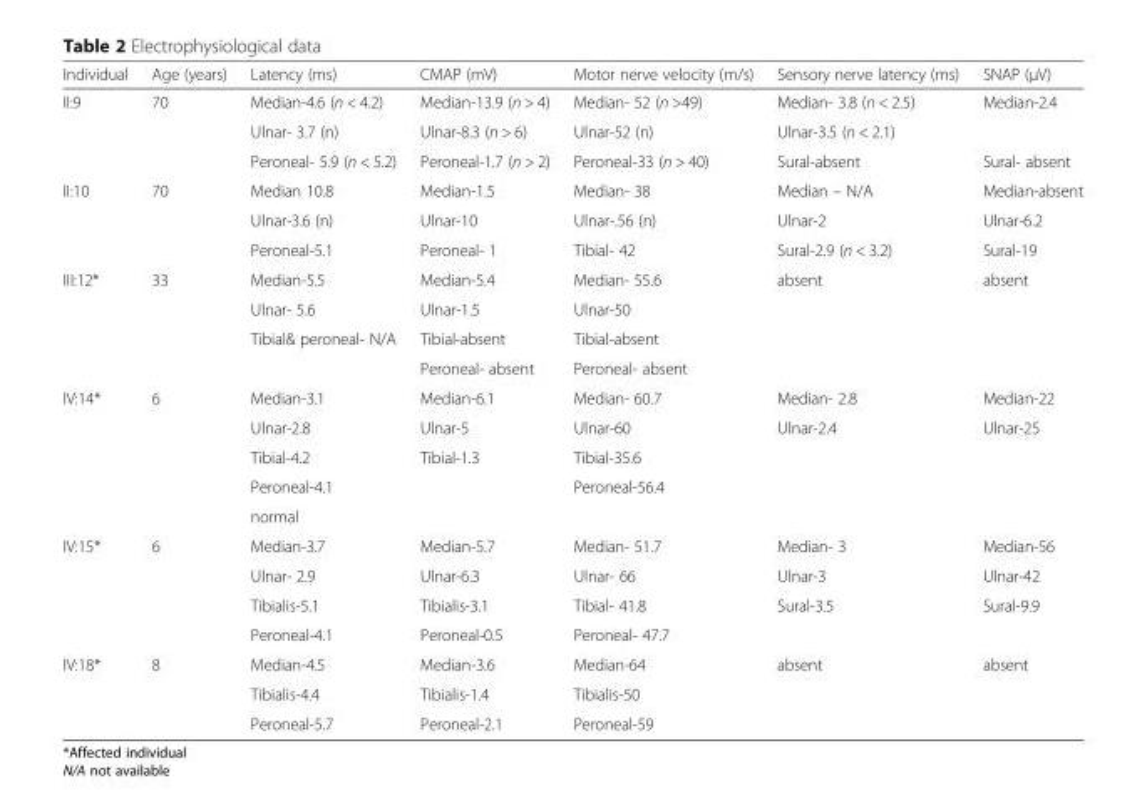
<table><thead><tr><td>Individual</td><td>Age (years)</td><td>Latency (ms)</td><td>CMAP (mV)</td><td>Motor nerve velocity (m/s)</td><td>Sensory nerve latency (ms)</td><td>SNAP (μV)</td></tr></thead><tbody><tr><td rowspan="3">II:9</td><td rowspan="3">70</td><td>Median-4.6 (n &lt; 4.2)</td><td>Median-13.9 (n &gt; 4)</td><td>Median- 52 (n &gt;49)</td><td>Median- 3.8 (n &lt; 2.5)</td><td>Median-2.4</td></tr><tr><td>Ulnar- 3.7 (n)</td><td>Ulnar-8.3 (n &gt; 6)</td><td>Ulnar-52 (n)</td><td>Ulnar-3.5 (n &lt; 2.1)</td><td></td></tr><tr><td>Peroneal- 5.9 (n &lt; 5.2)</td><td>Peroneal-1.7 (n &gt; 2)</td><td>Peroneal-33 (n &gt; 40)</td><td>Sural-absent</td><td>Sural- absent</td></tr><tr><td rowspan="3">II:10</td><td rowspan="3">70</td><td>Median 10.8</td><td>Median-1.5</td><td>Median- 38</td><td>Median – N/A</td><td>Median-absent</td></tr><tr><td>Ulnar-3.6 (n)</td><td>Ulnar-10</td><td>Ulnar-.56 (n)</td><td>Ulnar-2</td><td>Ulnar-6.2</td></tr><tr><td>Peroneal-5.1</td><td>Peroneal- 1</td><td>Tibial- 42</td><td>Sural-2.9 (n &lt; 3.2)</td><td>Sural-19</td></tr><tr><td rowspan="4">III:12*</td><td rowspan="4">33</td><td>Median-5.5</td><td>Median-5.4</td><td>Median- 55.6</td><td rowspan="4">absent</td><td rowspan="4">absent</td></tr><tr><td>Ulnar- 5.6</td><td>Ulnar-1.5</td><td>Ulnar-50</td></tr><tr><td rowspan="2">Tibial&amp; peroneal- N/A</td><td>Tibial-absent</td><td>Tibial-absent</td></tr><tr><td>Peroneal- absent</td><td>Peroneal- absent</td></tr><tr><td rowspan="5">IV:14*</td><td rowspan="5">6</td><td>Median-3.1</td><td>Median-6.1</td><td>Median- 60.7</td><td>Median- 2.8</td><td>Median-22</td></tr><tr><td>Ulnar-2.8</td><td>Ulnar-5</td><td>Ulnar-60</td><td>Ulnar-2.4</td><td rowspan="4">Ulnar-25</td></tr><tr><td>Tibial-4.2</td><td>Tibial-1.3</td><td>Tibial-35.6</td><td></td></tr><tr><td>Peroneal-4.1</td><td></td><td>Peroneal-56.4</td><td rowspan="2"></td></tr><tr><td>normal</td><td></td><td></td></tr><tr><td rowspan="4">IV:15*</td><td rowspan="4">6</td><td>Median-3.7</td><td>Median-5.7</td><td>Median- 51.7</td><td>Median- 3</td><td>Median-56</td></tr><tr><td>Ulnar- 2.9</td><td>Ulnar-6.3</td><td>Ulnar- 66</td><td>Ulnar-3</td><td>Ulnar-42</td></tr><tr><td>Tibialis-5.1</td><td>Tibialis-3.1</td><td>Tibial- 41.8</td><td>Sural-3.5</td><td>Sural-9.9</td></tr><tr><td>Peroneal-4.1</td><td>Peroneal-0.5</td><td>Peroneal- 47.7</td><td></td><td></td></tr><tr><td rowspan="3">IV:18*</td><td rowspan="3">8</td><td>Median-4.5</td><td>Median-3.6</td><td>Median-64</td><td rowspan="3">absent</td><td rowspan="3">absent</td></tr><tr><td>Tibialis-4.4</td><td>Tibialis-1.4</td><td>Tibialis-50</td></tr><tr><td>Peroneal-5.7</td><td>Peroneal-2.1</td><td>Peroneal-59</td></tr></tbody></table>